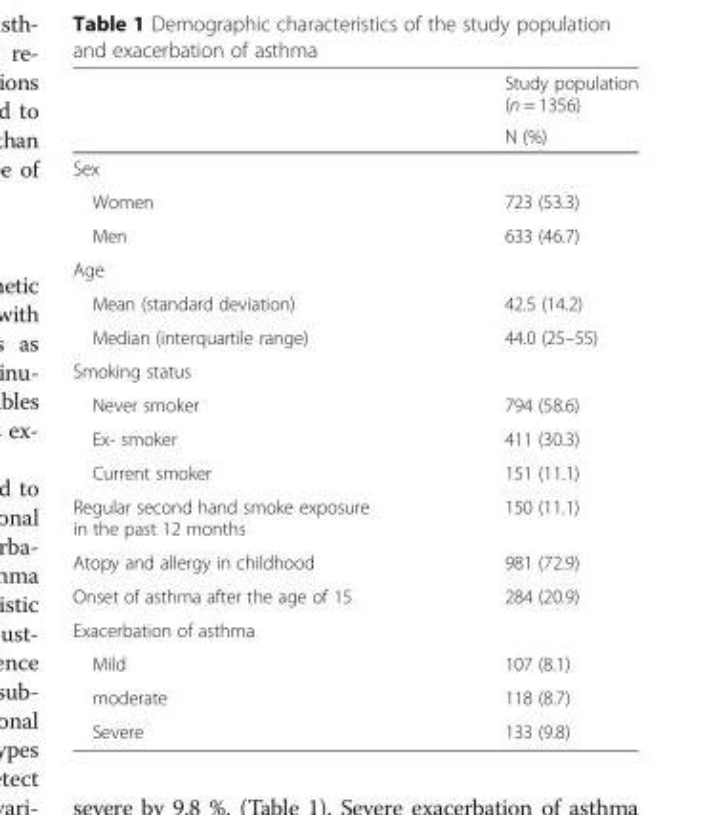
<table><thead><tr><td rowspan="2"></td><td rowspan="2">Study population (n = 1356) N (%)</td></tr><tr></tr></thead><tbody><tr><td colspan="2">Sex</td></tr><tr><td>Women</td><td>723 (53.3)</td></tr><tr><td>Men</td><td>633 (46.7)</td></tr><tr><td colspan="2">Age</td></tr><tr><td>Mean (standard deviation)</td><td>42.5 (14.2)</td></tr><tr><td>Median (interquartile range)</td><td>44.0 (25–55)</td></tr><tr><td colspan="2">Smoking status</td></tr><tr><td>Never smoker</td><td>794 (58.6)</td></tr><tr><td>Ex- smoker</td><td>411 (30.3)</td></tr><tr><td>Current smoker</td><td>151 (11.1)</td></tr><tr><td>Regular second hand smoke exposure in the past 12 months</td><td>150 (11.1)</td></tr><tr><td>Atopy and allergy in childhood</td><td>981 (72.9)</td></tr><tr><td>Onset of asthma after the age of 15</td><td>284 (20.9)</td></tr><tr><td colspan="2">Exacerbation of asthma</td></tr><tr><td>Mild</td><td>107 (8.1)</td></tr><tr><td>moderate</td><td>118 (8.7)</td></tr><tr><td>Severe</td><td>133 (9.8)</td></tr></tbody></table>